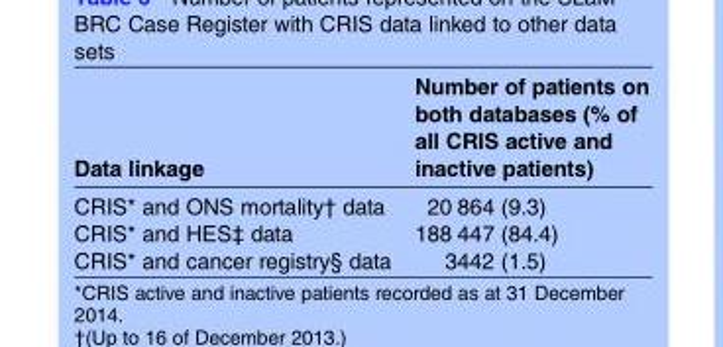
<table><thead><tr><td>Data linkage</td><td>Number of patients on both databases (% of all CRIS active and inactive patients)</td></tr></thead><tbody><tr><td>CRIS* and ONS mortality† data</td><td>20 864 (9.3)</td></tr><tr><td>CRIS* and HES‡ data</td><td>188 447 (84.4)</td></tr><tr><td>CRIS* and cancer registry§ data</td><td>3442 (1.5)</td></tr></tbody></table>